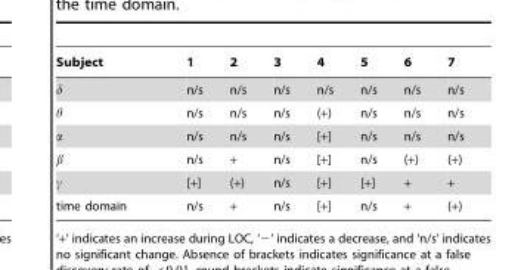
<table><thead><tr><td>Subject</td><td>1</td><td>2</td><td>3</td><td>4</td><td>5</td><td>6</td><td>7</td></tr></thead><tbody><tr><td>d</td><td>n/s</td><td>n/s</td><td>n/s</td><td>n/s</td><td>n/s</td><td>n/s</td><td>n/s</td></tr><tr><td>h</td><td>n/s</td><td>n/s</td><td>n/s</td><td>(+)</td><td>n/s</td><td>n/s</td><td>n/s</td></tr><tr><td>a</td><td>n/s</td><td>n/s</td><td>n/s</td><td>[+]</td><td>n/s</td><td>n/s</td><td>n/s</td></tr><tr><td>b</td><td>n/s</td><td>+</td><td>n/s</td><td>[+]</td><td>n/s</td><td>(+)</td><td>(+)</td></tr><tr><td>c</td><td>[+]</td><td>(+)</td><td>n/s</td><td>[+]</td><td>[+]</td><td>+</td><td>+</td></tr><tr><td>time domain</td><td>n/s</td><td>+</td><td>n/s</td><td>[+]</td><td>n/s</td><td>+</td><td>(+)</td></tr></tbody></table>